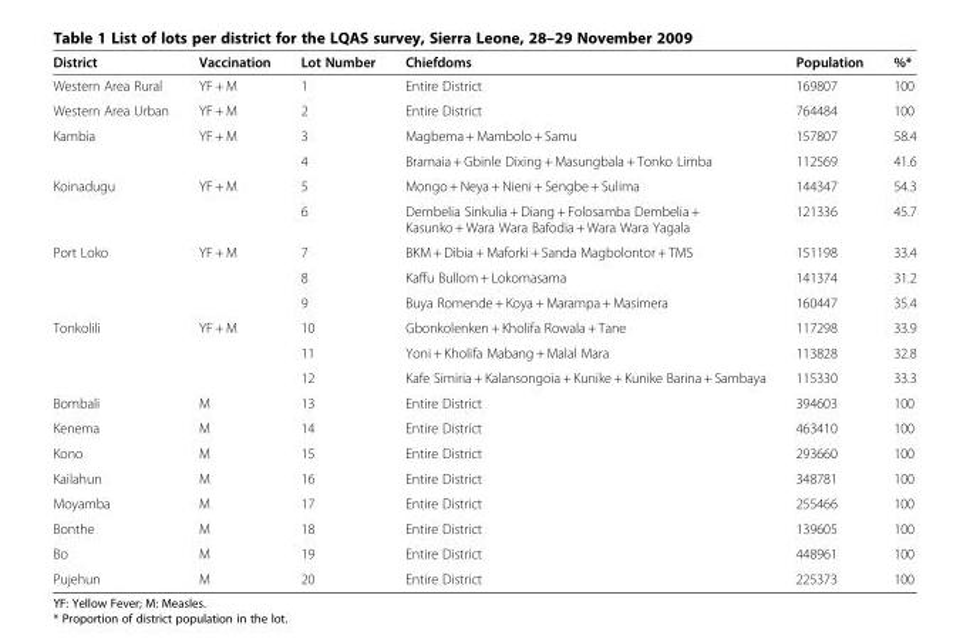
<table><thead><tr><td>District</td><td>Vaccination</td><td>Lot Number</td><td>Chiefdoms</td><td>Population</td><td>%*</td></tr></thead><tbody><tr><td>Western Area Rural</td><td>YF + M</td><td>1</td><td>Entire District</td><td>169807</td><td>100</td></tr><tr><td>Western Area Urban</td><td>YF + M</td><td>2</td><td>Entire District</td><td>764484</td><td>100</td></tr><tr><td rowspan="2">Kambia</td><td rowspan="2">YF + M</td><td>3</td><td>Magbema + Mambolo + Samu</td><td>157807</td><td>58.4</td></tr><tr><td>4</td><td>Bramaia + Gbinle Dixing + Masungbala + Tonko Limba</td><td>112569</td><td>41.6</td></tr><tr><td rowspan="2">Koinadugu</td><td rowspan="2">YF + M</td><td>5</td><td>Mongo + Neya + Nieni + Sengbe + Sulima</td><td>144347</td><td>54.3</td></tr><tr><td>6</td><td>Dembelia Sinkulia + Diang + Folosamba Dembelia + Kasunko + Wara Wara Bafodia + Wara Wara Yagala</td><td>121336</td><td>45.7</td></tr><tr><td rowspan="3">Port Loko</td><td rowspan="3">YF + M</td><td>7</td><td>BKM + Dibia + Maforki + Sanda Magbolontor + TMS</td><td>151198</td><td>33.4</td></tr><tr><td>8</td><td>Kaffu Bullom + Lokomasama</td><td>141374</td><td>31.2</td></tr><tr><td>9</td><td>Buya Romende + Koya + Marampa + Masimera</td><td>160447</td><td>35.4</td></tr><tr><td rowspan="3">Tonkolili</td><td rowspan="3">YF + M</td><td>10</td><td>Gbonkolenken + Kholifa Rowala + Tane</td><td>117298</td><td>33.9</td></tr><tr><td>11</td><td>Yoni + Kholifa Mabang + Malal Mara</td><td>113828</td><td>32.8</td></tr><tr><td>12</td><td>Kafe Simiria + Kalansongoia + Kunike + Kunike Barina + Sambaya</td><td>115330</td><td>33.3</td></tr><tr><td>Bombali</td><td>M</td><td>13</td><td>Entire District</td><td>394603</td><td>100</td></tr><tr><td>Kenema</td><td>M</td><td>14</td><td>Entire District</td><td>463410</td><td>100</td></tr><tr><td>Kono</td><td>M</td><td>15</td><td>Entire District</td><td>293660</td><td>100</td></tr><tr><td>Kailahun</td><td>M</td><td>16</td><td>Entire District</td><td>348781</td><td>100</td></tr><tr><td>Moyamba</td><td>M</td><td>17</td><td>Entire District</td><td>255466</td><td>100</td></tr><tr><td>Bonthe</td><td>M</td><td>18</td><td>Entire District</td><td>139605</td><td>100</td></tr><tr><td>Bo</td><td>M</td><td>19</td><td>Entire District</td><td>448961</td><td>100</td></tr><tr><td>Pujehun</td><td>M</td><td>20</td><td>Entire District</td><td>225373</td><td>100</td></tr></tbody></table>